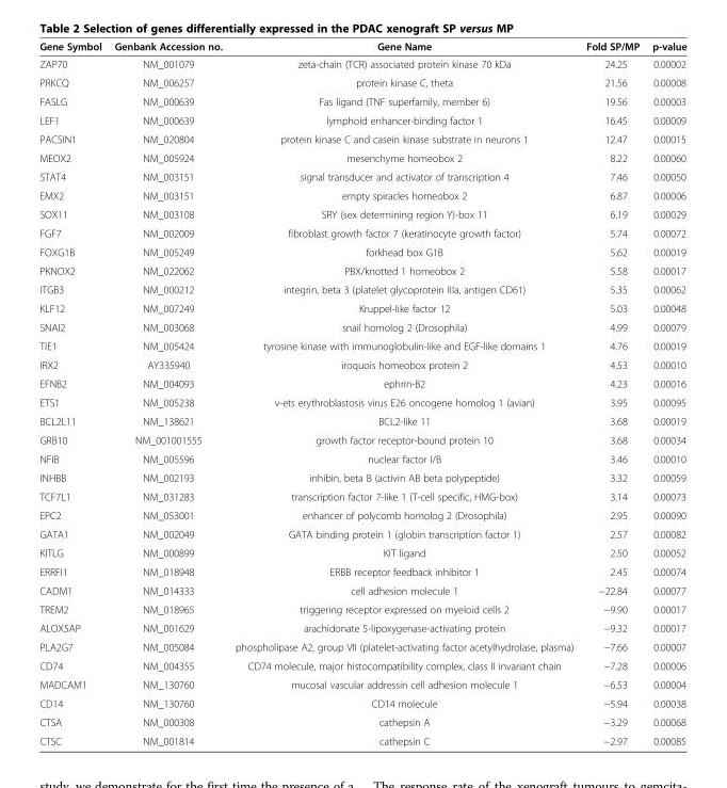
<table><thead><tr><td>Gene Symbol</td><td>Genbank Accession no.</td><td>Gene Name</td><td>Fold SP/MP</td><td>p-value</td></tr></thead><tbody><tr><td>ZAP70</td><td>NM_001079</td><td>zeta-chain (TCR) associated protein kinase 70 kDa</td><td>24.25</td><td>0.00002</td></tr><tr><td>PRKCQ</td><td>NM_006257</td><td>protein kinase C, theta</td><td>21.56</td><td>0.00008</td></tr><tr><td>FASLG</td><td>NM_000639</td><td>Fas ligand (TNF superfamily, member 6)</td><td>19.56</td><td>0.00003</td></tr><tr><td>LEF1</td><td>NM_000639</td><td>lymphoid enhancer-binding factor 1</td><td>16.45</td><td>0.00009</td></tr><tr><td>PACSIN1</td><td>NM_020804</td><td>protein kinase C and casein kinase substrate in neurons 1</td><td>12.47</td><td>0.00015</td></tr><tr><td>MEOX2</td><td>NM_005924</td><td>mesenchyme homeobox 2</td><td>8.22</td><td>0.00060</td></tr><tr><td>STAT4</td><td>NM_003151</td><td>signal transducer and activator of transcription 4</td><td>7.46</td><td>0.00050</td></tr><tr><td>EMX2</td><td>NM_003151</td><td>empty spiracles homeobox 2</td><td>6.87</td><td>0.00006</td></tr><tr><td>SOX11</td><td>NM_003108</td><td>SRY (sex determining region Y)-box 11</td><td>6.19</td><td>0.00029</td></tr><tr><td>FGF7</td><td>NM_002009</td><td>fibroblast growth factor 7 (keratinocyte growth factor)</td><td>5.74</td><td>0.00072</td></tr><tr><td>FOXG1B</td><td>NM_005249</td><td>forkhead box G1B</td><td>5.62</td><td>0.00019</td></tr><tr><td>PKNOX2</td><td>NM_022062</td><td>PBX/knotted 1 homeobox 2</td><td>5.58</td><td>0.00017</td></tr><tr><td>ITGB3</td><td>NM_000212</td><td>integrin, beta 3 (platelet glycoprotein IIIa, antigen CD61)</td><td>5.35</td><td>0.00062</td></tr><tr><td>KLF12</td><td>NM_007249</td><td>Kruppel-like factor 12</td><td>5.03</td><td>0.00048</td></tr><tr><td>SNAI2</td><td>NM_003068</td><td>snail homolog 2 (Drosophila)</td><td>4.99</td><td>0.00079</td></tr><tr><td>TIE1</td><td>NM_005424</td><td>tyrosine kinase with immunoglobulin-like and EGF-like domains 1</td><td>4.76</td><td>0.00019</td></tr><tr><td>IRX2</td><td>AY335940</td><td>iroquois homeobox protein 2</td><td>4.53</td><td>0.00010</td></tr><tr><td>EFNB2</td><td>NM_004093</td><td>ephrin-B2</td><td>4.23</td><td>0.00016</td></tr><tr><td>ETS1</td><td>NM_005238</td><td>v-ets erythroblastosis virus E26 oncogene homolog 1 (avian)</td><td>3.95</td><td>0.00095</td></tr><tr><td>BCL2L11</td><td>NM_138621</td><td>BCL2-like 11</td><td>3.68</td><td>0.00019</td></tr><tr><td>GRB10</td><td>NM_001001555</td><td>growth factor receptor-bound protein 10</td><td>3.68</td><td>0.00034</td></tr><tr><td>NFIB</td><td>NM_005596</td><td>nuclear factor I/B</td><td>3.46</td><td>0.00010</td></tr><tr><td>INHBB</td><td>NM_002193</td><td>inhibin, beta B (activin AB beta polypeptide)</td><td>3.32</td><td>0.00059</td></tr><tr><td>TCF7L1</td><td>NM_031283</td><td>transcription factor 7-like 1 (T-cell specific, HMG-box)</td><td>3.14</td><td>0.00073</td></tr><tr><td>EPC2</td><td>NM_053001</td><td>enhancer of polycomb homolog 2 (Drosophila)</td><td>2.95</td><td>0.00090</td></tr><tr><td>GATA1</td><td>NM_002049</td><td>GATA binding protein 1 (globin transcription factor 1)</td><td>2.57</td><td>0.00082</td></tr><tr><td>KITLG</td><td>NM_000899</td><td>KIT ligand</td><td>2.50</td><td>0.00052</td></tr><tr><td>ERRFI1</td><td>NM_018948</td><td>ERBB receptor feedback inhibitor 1</td><td>2.45</td><td>0.00074</td></tr><tr><td>CADM1</td><td>NM_014333</td><td>cell adhesion molecule 1</td><td>−22.84</td><td>0.00077</td></tr><tr><td>TREM2</td><td>NM_018965</td><td>triggering receptor expressed on myeloid cells 2</td><td>−9.90</td><td>0.00017</td></tr><tr><td>ALOX5AP</td><td>NM_001629</td><td>arachidonate 5-lipoxygenase-activating protein</td><td>−9.32</td><td>0.00017</td></tr><tr><td>PLA2G7</td><td>NM_005084</td><td>phospholipase A2, group VII (platelet-activating factor acetylhydrolase, plasma)</td><td>−7.66</td><td>0.00007</td></tr><tr><td>CD74</td><td>NM_004355</td><td>CD74 molecule, major histocompatibility complex, class II invariant chain</td><td>−7.28</td><td>0.00006</td></tr><tr><td>MADCAM1</td><td>NM_130760</td><td>mucosal vascular addressin cell adhesion molecule 1</td><td>−6.53</td><td>0.00004</td></tr><tr><td>CD14</td><td>NM_130760</td><td>CD14 molecule</td><td>−5.94</td><td>0.00038</td></tr><tr><td>CTSA</td><td>NM_000308</td><td>cathepsin A</td><td>−3.29</td><td>0.00068</td></tr><tr><td>CTSC</td><td>NM_001814</td><td>cathepsin C</td><td>−2.97</td><td>0.00085</td></tr></tbody></table>